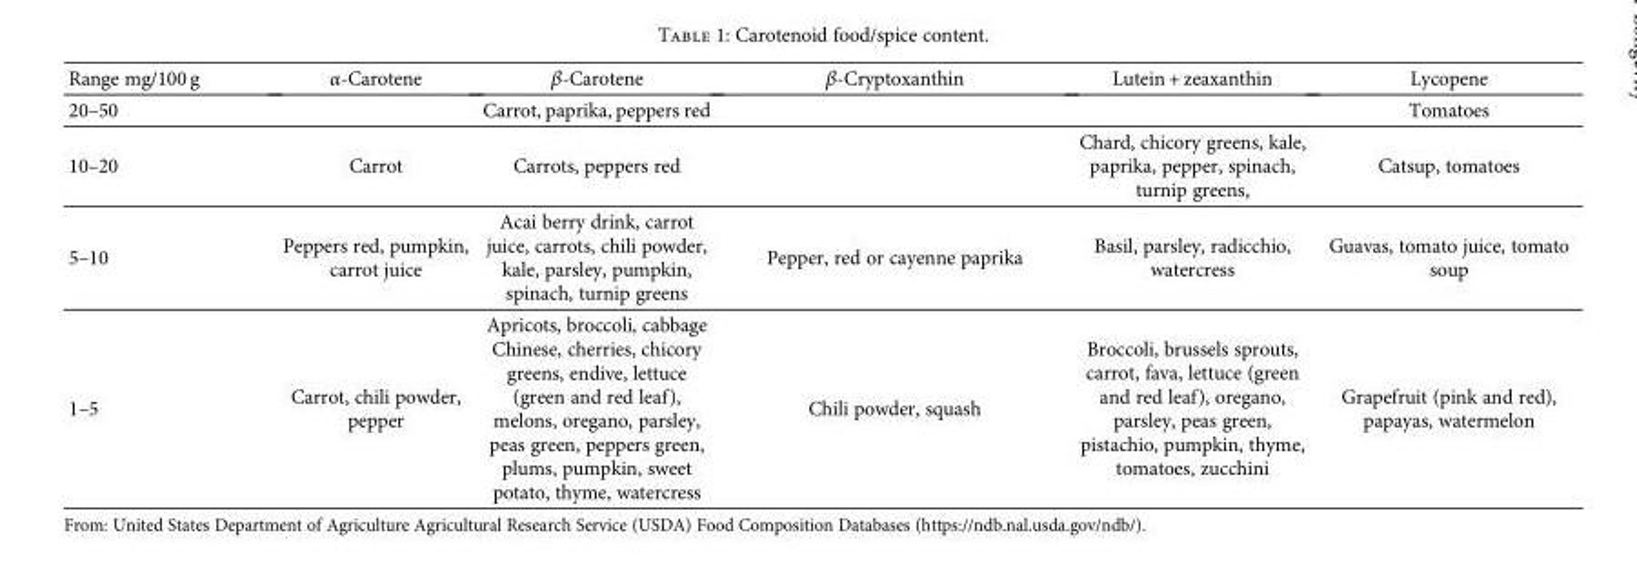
<table><thead><tr><td>Range mg/100 g</td><td>α-Carotene</td><td>β-Carotene</td><td>β-Cryptoxanthin</td><td>Lutein + zeaxanthin</td><td>Lycopene</td></tr></thead><tbody><tr><td>20–50</td><td></td><td>Carrot, paprika, peppers red</td><td></td><td></td><td>Tomatoes</td></tr><tr><td>10–20</td><td>Carrot</td><td>Carrots, peppers red</td><td></td><td>Chard, chicory greens, kale, paprika, pepper, spinach, turnip greens,</td><td>Catsup, tomatoes</td></tr><tr><td>5–10</td><td>Peppers red, pumpkin, carrot juice</td><td>Acai berry drink, carrot juice, carrots, chili powder, kale, parsley, pumpkin, spinach, turnip greens</td><td>Pepper, red or cayenne paprika</td><td>Basil, parsley, radicchio, watercress</td><td>Guavas, tomato juice, tomato soup</td></tr><tr><td>1–5</td><td>Carrot, chili powder, pepper</td><td>Apricots, broccoli, cabbage Chinese, cherries, chicory greens, endive, lettuce (green and red leaf), melons, oregano, parsley, peas green, peppers green, plums, pumpkin, sweet potato, thyme, watercress</td><td>Chili powder, squash</td><td>Broccoli, brussels sprouts, carrot, fava, lettuce (green and red leaf), oregano, parsley, peas green, pistachio, pumpkin, thyme, tomatoes, zucchini</td><td>Grapefruit (pink and red), papayas, watermelon</td></tr></tbody></table>